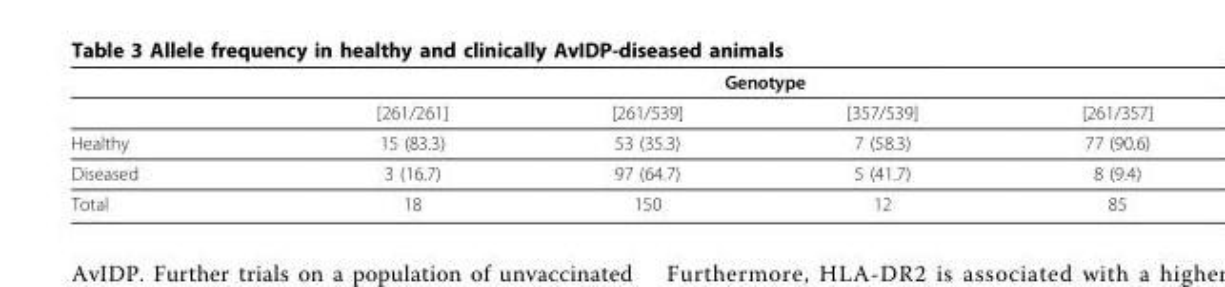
<table><thead><tr><td rowspan="2"></td><td colspan="4">Genotype</td></tr><tr><td>[261/261]</td><td>[261/539]</td><td>[357/539]</td><td>[261/357]</td></tr></thead><tbody><tr><td>Healthy</td><td>15 (83.3)</td><td>53 (35.3)</td><td>7 (58.3)</td><td>77 (90.6)</td></tr><tr><td>Diseased</td><td>3 (16.7)</td><td>97 (64.7)</td><td>5 (41.7)</td><td>8 (9.4)</td></tr><tr><td>Total</td><td>18</td><td>150</td><td>12</td><td>85</td></tr></tbody></table>